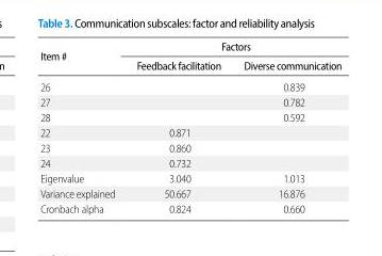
<table><thead><tr><td rowspan="2">Item #</td><td colspan="2">Factors</td></tr><tr><td>Feedback facilitation</td><td>Diverse communication</td></tr></thead><tbody><tr><td>26</td><td></td><td>0.839</td></tr><tr><td>27</td><td></td><td>0.782</td></tr><tr><td>28</td><td></td><td>0.592</td></tr><tr><td>22</td><td>0.871</td><td></td></tr><tr><td>23</td><td>0.860</td><td></td></tr><tr><td>24</td><td>0.732</td><td></td></tr><tr><td>Eigenvalue</td><td>3.040</td><td>1.013</td></tr><tr><td>Variance explained</td><td>50.667</td><td>16.876</td></tr><tr><td>Cronbach alpha</td><td>0.824</td><td>0.660</td></tr></tbody></table>